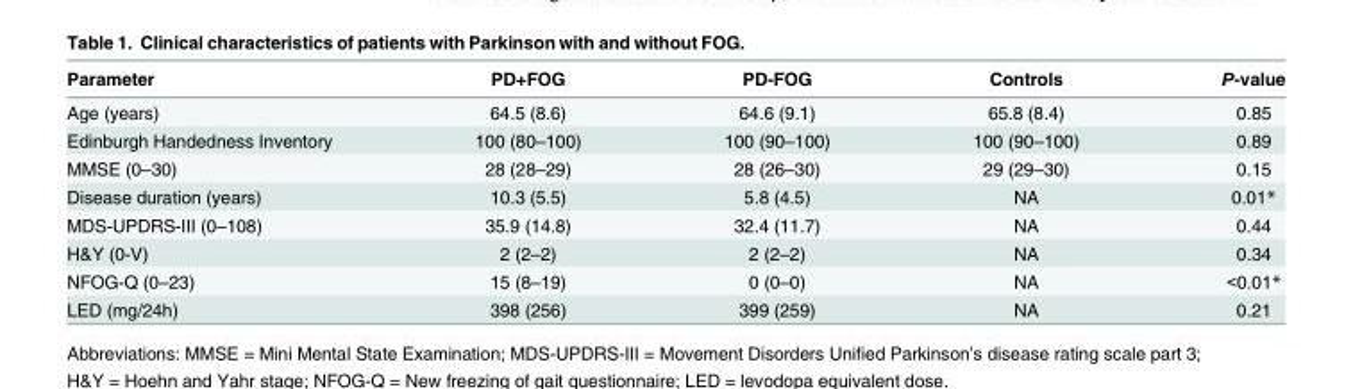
<table><thead><tr><td>Parameter</td><td>PD+FOG</td><td>PD-FOG</td><td>Controls</td><td>P-value</td></tr></thead><tbody><tr><td>Age (years)</td><td>64.5 (8.6)</td><td>64.6 (9.1)</td><td>65.8 (8.4)</td><td>0.85</td></tr><tr><td>Edinburgh Handedness Inventory</td><td>100 (80–100)</td><td>100 (90–100)</td><td>100 (90–100)</td><td>0.89</td></tr><tr><td>MMSE (0–30)</td><td>28 (28–29)</td><td>28 (26–30)</td><td>29 (29–30)</td><td>0.15</td></tr><tr><td>Disease duration (years)</td><td>10.3 (5.5)</td><td>5.8 (4.5)</td><td>NA</td><td>0.01*</td></tr><tr><td>MDS-UPDRS-III (0–108)</td><td>35.9 (14.8)</td><td>32.4 (11.7)</td><td>NA</td><td>0.44</td></tr><tr><td>H&amp;Y (0-V)</td><td>2 (2–2)</td><td>2 (2–2)</td><td>NA</td><td>0.34</td></tr><tr><td>NFOG-Q (0–23)</td><td>15 (8–19)</td><td>0 (0–0)</td><td>NA</td><td>&lt;0.01*</td></tr><tr><td>LED (mg/24h)</td><td>398 (256)</td><td>399 (259)</td><td>NA</td><td>0.21</td></tr></tbody></table>